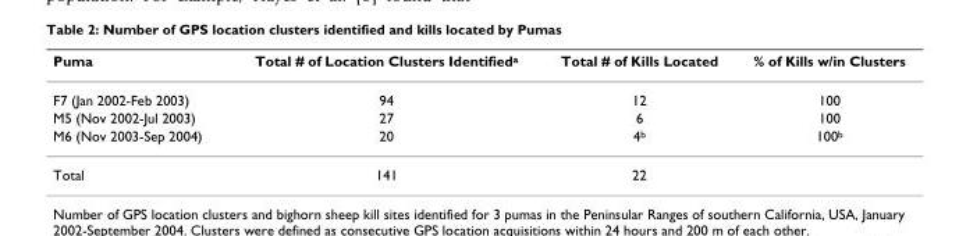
<table><thead><tr><td>Puma</td><td>Total # of Location Clusters Identified<sup>a</sup></td><td>Total # of Kills Located</td><td>% of Kills w/in Clusters</td></tr></thead><tbody><tr><td>F7 (Jan 2002-Feb 2003)</td><td>94</td><td>12</td><td>100</td></tr><tr><td>M5 (Nov 2002-Jul 2003)</td><td>27</td><td>6</td><td>100</td></tr><tr><td>M6 (Nov 2003-Sep 2004)</td><td>20</td><td>4<sup>b</sup></td><td>100<sup>b</sup></td></tr><tr><td>Total</td><td>141</td><td>22</td><td></td></tr></tbody></table>